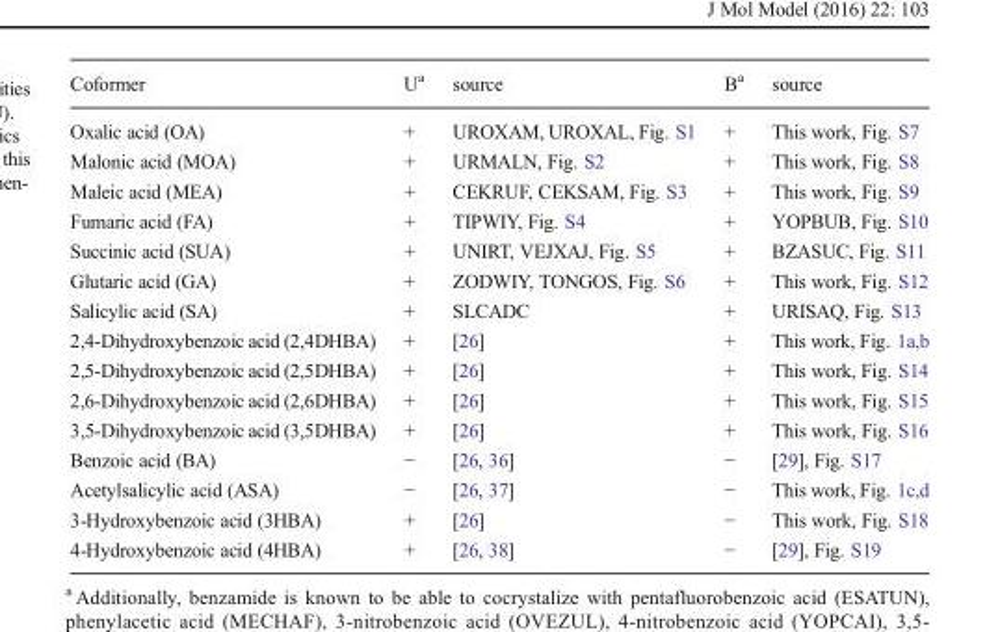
<table><thead><tr><td>Coformer</td><td>U<sup>a</sup></td><td>source</td><td>B<sup>a</sup></td><td>source</td></tr></thead><tbody><tr><td>Oxalic acid (OA)</td><td>+</td><td>UROXAM, UROXAL, Fig. S1</td><td>+</td><td>This work, Fig. S7</td></tr><tr><td>Malonic acid (MOA)</td><td>+</td><td>URMALN, Fig. S2</td><td>+</td><td>This work, Fig. S8</td></tr><tr><td>Maleic acid (MEA)</td><td>+</td><td>CEKRUF, CEKSAM, Fig. S3</td><td>+</td><td>This work, Fig. S9</td></tr><tr><td>Fumaric acid (FA)</td><td>+</td><td>TIPWIY, Fig. S4</td><td>+</td><td>YOPBUB, Fig. S10</td></tr><tr><td>Succinic acid (SUA)</td><td>+</td><td>UNIRT, VEJXAJ, Fig. S5</td><td>+</td><td>BZASUC, Fig. S11</td></tr><tr><td>Glutaric acid (GA)</td><td>+</td><td>ZODWIY, TONGOS, Fig. S6</td><td>+</td><td>This work, Fig. S12</td></tr><tr><td>Salicylic acid (SA)</td><td>+</td><td>SLCADC</td><td>+</td><td>URISAQ, Fig. S13</td></tr><tr><td>2,4-Dihydroxybenzoic acid (2,4DHBA)</td><td>+</td><td>[26]</td><td>+</td><td>This work, Fig. 1a,b</td></tr><tr><td>2,5-Dihydroxybenzoic acid (2,5DHBA)</td><td>+</td><td>[26]</td><td>+</td><td>This work, Fig. S14</td></tr><tr><td>2,6-Dihydroxybenzoic acid (2,6DHBA)</td><td>+</td><td>[26]</td><td>+</td><td>This work, Fig. S15</td></tr><tr><td>3,5-Dihydroxybenzoic acid (3,5DHBA)</td><td>+</td><td>[26]</td><td>+</td><td>This work, Fig. S16</td></tr><tr><td>Benzoic acid (BA)</td><td>−</td><td>[26, 36]</td><td>−</td><td>[29], Fig. S17</td></tr><tr><td>Acetylsalicylic acid (ASA)</td><td>−</td><td>[26, 37]</td><td>−</td><td>This work, Fig. 1c,d</td></tr><tr><td>3-Hydroxybenzoic acid (3HBA)</td><td>+</td><td>[26]</td><td>−</td><td>This work, Fig. S18</td></tr><tr><td>4-Hydroxybenzoic acid (4HBA)</td><td>+</td><td>[26, 38]</td><td>−</td><td>[29], Fig. S19</td></tr></tbody></table>